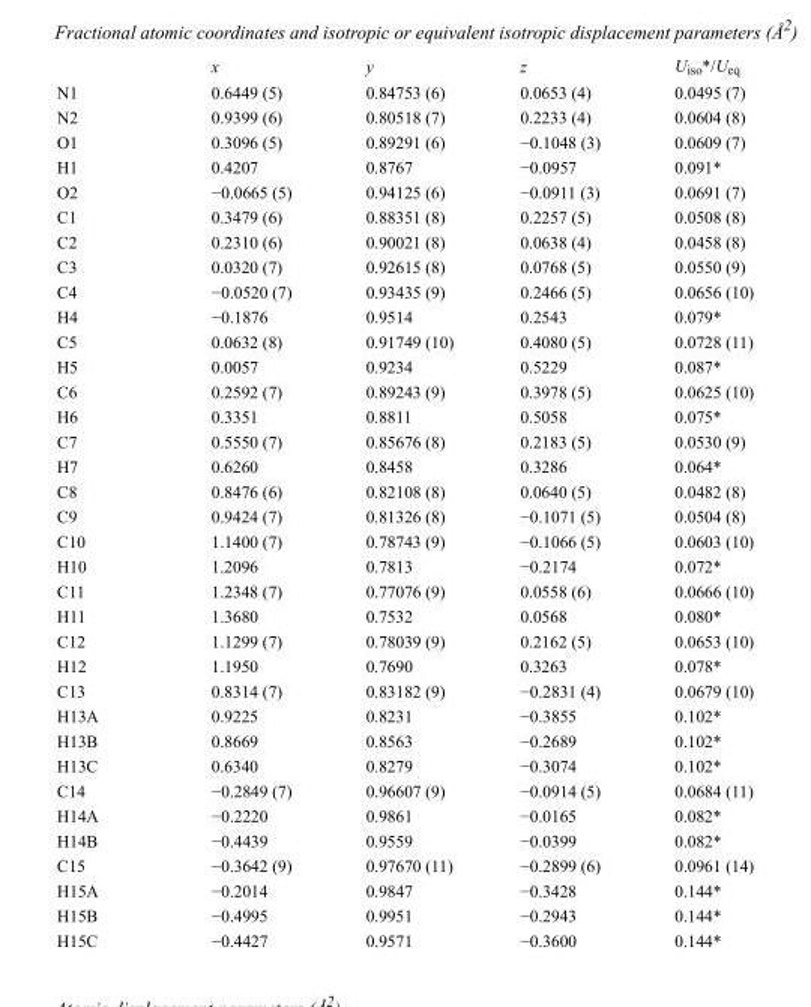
<table><thead><tr><td></td><td>x</td><td>y</td><td>z</td><td>U<sub>iso</sub>*/U<sub>eq</sub></td></tr></thead><tbody><tr><td>N1</td><td>0.6449 (5)</td><td>0.84753 (6)</td><td>0.0653 (4)</td><td>0.0495 (7)</td></tr><tr><td>N2</td><td>0.9399 (6)</td><td>0.80518 (7)</td><td>0.2233 (4)</td><td>0.0604 (8)</td></tr><tr><td>O1</td><td>0.3096 (5)</td><td>0.89291 (6)</td><td>−0.1048 (3)</td><td>0.0609 (7)</td></tr><tr><td>H1</td><td>0.4207</td><td>0.8767</td><td>−0.0957</td><td>0.091*</td></tr><tr><td>O2</td><td>−0.0665 (5)</td><td>0.94125 (6)</td><td>−0.0911 (3)</td><td>0.0691 (7)</td></tr><tr><td>C1</td><td>0.3479 (6)</td><td>0.88351 (8)</td><td>0.2257 (5)</td><td>0.0508 (8)</td></tr><tr><td>C2</td><td>0.2310 (6)</td><td>0.90021 (8)</td><td>0.0638 (4)</td><td>0.0458 (8)</td></tr><tr><td>C3</td><td>0.0320 (7)</td><td>0.92615 (8)</td><td>0.0768 (5)</td><td>0.0550 (9)</td></tr><tr><td>C4</td><td>−0.0520 (7)</td><td>0.93435 (9)</td><td>0.2466 (5)</td><td>0.0656 (10)</td></tr><tr><td>H4</td><td>−0.1876</td><td>0.9514</td><td>0.2543</td><td>0.079*</td></tr><tr><td>C5</td><td>0.0632 (8)</td><td>0.91749 (10)</td><td>0.4080 (5)</td><td>0.0728 (11)</td></tr><tr><td>H5</td><td>0.0057</td><td>0.9234</td><td>0.5229</td><td>0.087*</td></tr><tr><td>C6</td><td>0.2592 (7)</td><td>0.89243 (9)</td><td>0.3978 (5)</td><td>0.0625 (10)</td></tr><tr><td>H6</td><td>0.3351</td><td>0.8811</td><td>0.5058</td><td>0.075*</td></tr><tr><td>C7</td><td>0.5550 (7)</td><td>0.85676 (8)</td><td>0.2183 (5)</td><td>0.0530 (9)</td></tr><tr><td>H7</td><td>0.6260</td><td>0.8458</td><td>0.3286</td><td>0.064*</td></tr><tr><td>C8</td><td>0.8476 (6)</td><td>0.82108 (8)</td><td>0.0640 (5)</td><td>0.0482 (8)</td></tr><tr><td>C9</td><td>0.9424 (7)</td><td>0.81326 (8)</td><td>−0.1071 (5)</td><td>0.0504 (8)</td></tr><tr><td>C10</td><td>1.1400 (7)</td><td>0.78743 (9)</td><td>−0.1066 (5)</td><td>0.0603 (10)</td></tr><tr><td>H10</td><td>1.2096</td><td>0.7813</td><td>−0.2174</td><td>0.072*</td></tr><tr><td>C11</td><td>1.2348 (7)</td><td>0.77076 (9)</td><td>0.0558 (6)</td><td>0.0666 (10)</td></tr><tr><td>H11</td><td>1.3680</td><td>0.7532</td><td>0.0568</td><td>0.080*</td></tr><tr><td>C12</td><td>1.1299 (7)</td><td>0.78039 (9)</td><td>0.2162 (5)</td><td>0.0653 (10)</td></tr><tr><td>H12</td><td>1.1950</td><td>0.7690</td><td>0.3263</td><td>0.078*</td></tr><tr><td>C13</td><td>0.8314 (7)</td><td>0.83182 (9)</td><td>−0.2831 (4)</td><td>0.0679 (10)</td></tr><tr><td>H13A</td><td>0.9225</td><td>0.8231</td><td>−0.3855</td><td>0.102*</td></tr><tr><td>H13B</td><td>0.8669</td><td>0.8563</td><td>−0.2689</td><td>0.102*</td></tr><tr><td>H13C</td><td>0.6340</td><td>0.8279</td><td>−0.3074</td><td>0.102*</td></tr><tr><td>C14</td><td>−0.2849 (7)</td><td>0.96607 (9)</td><td>−0.0914 (5)</td><td>0.0684 (11)</td></tr><tr><td>H14A</td><td>−0.2220</td><td>0.9861</td><td>−0.0165</td><td>0.082*</td></tr><tr><td>H14B</td><td>−0.4439</td><td>0.9559</td><td>−0.0399</td><td>0.082*</td></tr><tr><td>C15</td><td>−0.3642 (9)</td><td>0.97670 (11)</td><td>−0.2899 (6)</td><td>0.0961 (14)</td></tr><tr><td>H15A</td><td>−0.2014</td><td>0.9847</td><td>−0.3428</td><td>0.144*</td></tr><tr><td>H15B</td><td>−0.4995</td><td>0.9951</td><td>−0.2943</td><td>0.144*</td></tr><tr><td>H15C</td><td>−0.4427</td><td>0.9571</td><td>−0.3600</td><td>0.144*</td></tr></tbody></table>